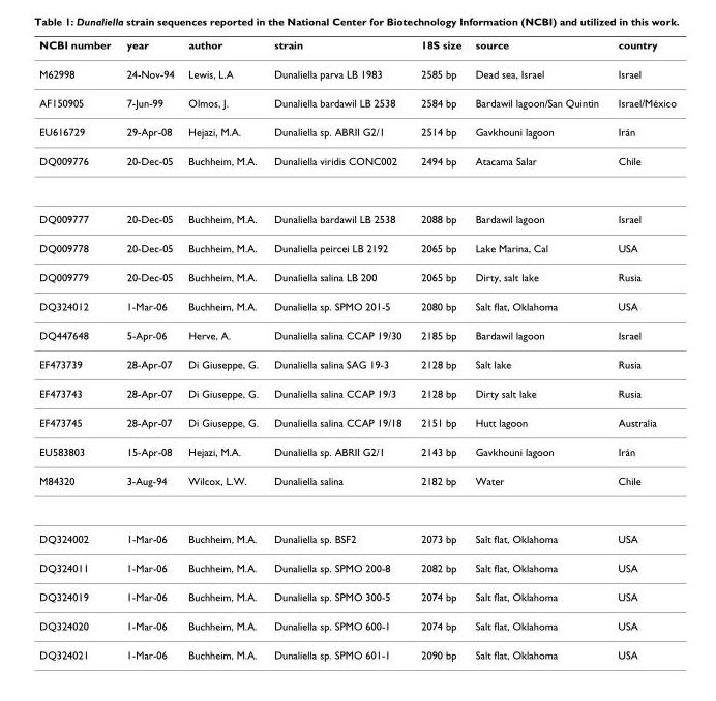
<table><thead><tr><td>NCBI number</td><td>year</td><td>author</td><td>strain</td><td>18S size</td><td>source</td><td>country</td></tr></thead><tbody><tr><td>M62998</td><td>24-Nov-94</td><td>Lewis, L.A</td><td>Dunaliella parva LB 1983</td><td>2585 bp</td><td>Dead sea, Israel</td><td>Israel</td></tr><tr><td>AF150905</td><td>7-Jun-99</td><td>Olmos, J.</td><td>Dunaliella bardawil LB 2538</td><td>2584 bp</td><td>Bardawil lagoon/San Quintin</td><td>Israel/México</td></tr><tr><td>EU616729</td><td>29-Apr-08</td><td>Hejazi, M.A.</td><td>Dunaliella sp. ABRII G2/1</td><td>2514 bp</td><td>Gavkhouni lagoon</td><td>Irán</td></tr><tr><td>DQ009776</td><td>20-Dec-05</td><td>Buchheim, M.A.</td><td>Dunaliella viridis CONC002</td><td>2494 bp</td><td>Atacama Salar</td><td>Chile</td></tr><tr><td>DQ009777</td><td>20-Dec-05</td><td>Buchheim, M.A.</td><td>Dunaliella bardawil LB 2538</td><td>2088 bp</td><td>Bardawil lagoon</td><td>Israel</td></tr><tr><td>DQ009778</td><td>20-Dec-05</td><td>Buchheim, M.A.</td><td>Dunaliella peircei LB 2192</td><td>2065 bp</td><td>Lake Marina, Cal</td><td>USA</td></tr><tr><td>DQ009779</td><td>20-Dec-05</td><td>Buchheim, M.A.</td><td>Dunaliella salina LB 200</td><td>2065 bp</td><td>Dirty, salt lake</td><td>Rusia</td></tr><tr><td>DQ324012</td><td>1-Mar-06</td><td>Buchheim, M.A.</td><td>Dunaliella sp. SPMO 201-5</td><td>2080 bp</td><td>Salt flat, Oklahoma</td><td>USA</td></tr><tr><td>DQ447648</td><td>5-Apr-06</td><td>Herve, A.</td><td>Dunaliella salina CCAP 19/30</td><td>2185 bp</td><td>Bardawil lagoon</td><td>Israel</td></tr><tr><td>EF473739</td><td>28-Apr-07</td><td>Di Giuseppe, G.</td><td>Dunaliella salina SAG 19-3</td><td>2128 bp</td><td>Salt lake</td><td>Rusia</td></tr><tr><td>EF473743</td><td>28-Apr-07</td><td>Di Giuseppe, G.</td><td>Dunaliella salina CCAP 19/3</td><td>2128 bp</td><td>Dirty salt lake</td><td>Rusia</td></tr><tr><td>EF473745</td><td>28-Apr-07</td><td>Di Giuseppe, G.</td><td>Dunaliella salina CCAP 19/18</td><td>2151 bp</td><td>Hutt lagoon</td><td>Australia</td></tr><tr><td>EU583803</td><td>15-Apr-08</td><td>Hejazi, M.A.</td><td>Dunaliella sp. ABRII G2/1</td><td>2143 bp</td><td>Gavkhouni lagoon</td><td>Irán</td></tr><tr><td>M84320</td><td>3-Aug-94</td><td>Wilcox, L.W.</td><td>Dunaliella salina</td><td>2182 bp</td><td>Water</td><td>Chile</td></tr><tr><td>DQ324002</td><td>1-Mar-06</td><td>Buchheim, M.A.</td><td>Dunaliella sp. BSF2</td><td>2073 bp</td><td>Salt flat, Oklahoma</td><td>USA</td></tr><tr><td>DQ324011</td><td>1-Mar-06</td><td>Buchheim, M.A.</td><td>Dunaliella sp. SPMO 200-8</td><td>2082 bp</td><td>Salt flat, Oklahoma</td><td>USA</td></tr><tr><td>DQ324019</td><td>1-Mar-06</td><td>Buchheim, M.A.</td><td>Dunaliella sp. SPMO 300-5</td><td>2074 bp</td><td>Salt flat, Oklahoma</td><td>USA</td></tr><tr><td>DQ324020</td><td>1-Mar-06</td><td>Buchheim, M.A.</td><td>Dunaliella sp. SPMO 600-1</td><td>2074 bp</td><td>Salt flat, Oklahoma</td><td>USA</td></tr><tr><td>DQ324021</td><td>1-Mar-06</td><td>Buchheim, M.A.</td><td>Dunaliella sp. SPMO 601-1</td><td>2090 bp</td><td>Salt flat, Oklahoma</td><td>USA</td></tr></tbody></table>